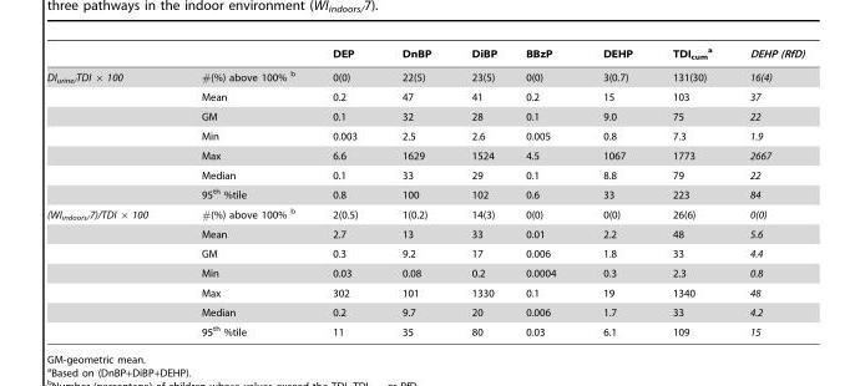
<table><thead><tr><td></td><td></td><td>DEP</td><td>DnBP</td><td>DiBP</td><td>BBzP</td><td>DEHP</td><td>TDI<sub>cum</sub> a</td><td>DEHP (RfD)</td></tr></thead><tbody><tr><td rowspan="7">DI<sub>urine/</sub>TDI × 100</td><td>#(%) above 100% b</td><td>0(0)</td><td>22(5)</td><td>23(5)</td><td>0(0)</td><td>3(0.7)</td><td>131(30)</td><td>16(4)</td></tr><tr><td>Mean</td><td>0.2</td><td>47</td><td>41</td><td>0.2</td><td>15</td><td>103</td><td>37</td></tr><tr><td>GM</td><td>0.1</td><td>32</td><td>28</td><td>0.1</td><td>9.0</td><td>75</td><td>22</td></tr><tr><td>Min</td><td>0.003</td><td>2.5</td><td>2.6</td><td>0.005</td><td>0.8</td><td>7.3</td><td>1.9</td></tr><tr><td>Max</td><td>6.6</td><td>1629</td><td>1524</td><td>4.5</td><td>1067</td><td>1773</td><td>2667</td></tr><tr><td>Median</td><td>0.1</td><td>33</td><td>29</td><td>0.1</td><td>8.8</td><td>79</td><td>22</td></tr><tr><td>95<sup>th</sup> %tile</td><td>0.8</td><td>100</td><td>102</td><td>0.6</td><td>33</td><td>223</td><td>84</td></tr><tr><td rowspan="7">(WI<sub>indoors/</sub>7)/TDI × 100</td><td>#(%) above 100% b</td><td>2(0.5)</td><td>1(0.2)</td><td>14(3)</td><td>0(0)</td><td>0(0)</td><td>26(6)</td><td>0(0)</td></tr><tr><td>Mean</td><td>2.7</td><td>13</td><td>33</td><td>0.01</td><td>2.2</td><td>48</td><td>5.6</td></tr><tr><td>GM</td><td>0.3</td><td>9.2</td><td>17</td><td>0.006</td><td>1.8</td><td>33</td><td>4.4</td></tr><tr><td>Min</td><td>0.03</td><td>0.08</td><td>0.2</td><td>0.0004</td><td>0.3</td><td>2.3</td><td>0.8</td></tr><tr><td>Max</td><td>302</td><td>101</td><td>1330</td><td>0.1</td><td>19</td><td>1340</td><td>48</td></tr><tr><td>Median</td><td>0.2</td><td>9.7</td><td>20</td><td>0.006</td><td>1.7</td><td>33</td><td>4.2</td></tr><tr><td>95<sup>th</sup> %tile</td><td>11</td><td>35</td><td>80</td><td>0.03</td><td>6.1</td><td>109</td><td>15</td></tr></tbody></table>